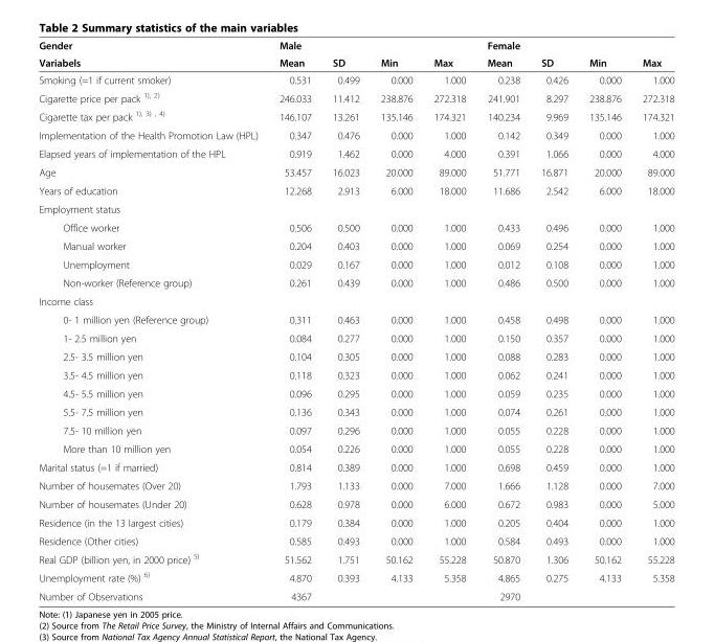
<table><thead><tr><td rowspan="2">Gender Variabels</td><td rowspan="2">Male Mean</td><td rowspan="2">SD</td><td rowspan="2">Min</td><td rowspan="2">Max</td><td rowspan="2">Female Mean</td><td rowspan="2">SD</td><td rowspan="2">Min</td><td rowspan="2">Max</td></tr><tr></tr></thead><tbody><tr><td>Smoking (=1 if current smoker)</td><td>0.531</td><td>0.499</td><td>0.000</td><td>1.000</td><td>0.238</td><td>0.426</td><td>0.000</td><td>1.000</td></tr><tr><td>Cigarette price per pack <sup>1), 2)</sup></td><td>246.033</td><td>11.412</td><td>238.876</td><td>272.318</td><td>241.901</td><td>8.297</td><td>238.876</td><td>272.318</td></tr><tr><td>Cigarette tax per pack <sup>1), 3) , 4)</sup></td><td>146.107</td><td>13.261</td><td>135.146</td><td>174.321</td><td>140.234</td><td>9.969</td><td>135.146</td><td>174.321</td></tr><tr><td>Implementation of the Health Promotion Law (HPL)</td><td>0.347</td><td>0.476</td><td>0.000</td><td>1.000</td><td>0.142</td><td>0.349</td><td>0.000</td><td>1.000</td></tr><tr><td>Elapsed years of implementation of the HPL</td><td>0.919</td><td>1.462</td><td>0.000</td><td>4.000</td><td>0.391</td><td>1.066</td><td>0.000</td><td>4.000</td></tr><tr><td>Age</td><td>53.457</td><td>16.023</td><td>20.000</td><td>89.000</td><td>51.771</td><td>16.871</td><td>20.000</td><td>89.000</td></tr><tr><td>Years of education</td><td>12.268</td><td>2.913</td><td>6.000</td><td>18.000</td><td>11.686</td><td>2.542</td><td>6.000</td><td>18.000</td></tr><tr><td colspan="9">Employment status</td></tr><tr><td>Office worker</td><td>0.506</td><td>0.500</td><td>0.000</td><td>1.000</td><td>0.433</td><td>0.496</td><td>0.000</td><td>1.000</td></tr><tr><td>Manual worker</td><td>0.204</td><td>0.403</td><td>0.000</td><td>1.000</td><td>0.069</td><td>0.254</td><td>0.000</td><td>1.000</td></tr><tr><td>Unemployment</td><td>0.029</td><td>0.167</td><td>0.000</td><td>1.000</td><td>0.012</td><td>0.108</td><td>0.000</td><td>1.000</td></tr><tr><td>Non-worker (Reference group)</td><td>0.261</td><td>0.439</td><td>0.000</td><td>1.000</td><td>0.486</td><td>0.500</td><td>0.000</td><td>1.000</td></tr><tr><td colspan="9">Income class</td></tr><tr><td>0- 1 million yen (Reference group)</td><td>0.311</td><td>0.463</td><td>0.000</td><td>1.000</td><td>0.458</td><td>0.498</td><td>0.000</td><td>1.000</td></tr><tr><td>1- 2.5 million yen</td><td>0.084</td><td>0.277</td><td>0.000</td><td>1.000</td><td>0.150</td><td>0.357</td><td>0.000</td><td>1.000</td></tr><tr><td>2.5- 3.5 million yen</td><td>0.104</td><td>0.305</td><td>0.000</td><td>1.000</td><td>0.088</td><td>0.283</td><td>0.000</td><td>1.000</td></tr><tr><td>3.5- 4.5 million yen</td><td>0.118</td><td>0.323</td><td>0.000</td><td>1.000</td><td>0.062</td><td>0.241</td><td>0.000</td><td>1.000</td></tr><tr><td>4.5- 5.5 million yen</td><td>0.096</td><td>0.295</td><td>0.000</td><td>1.000</td><td>0.059</td><td>0.235</td><td>0.000</td><td>1.000</td></tr><tr><td>5.5- 7.5 million yen</td><td>0.136</td><td>0.343</td><td>0.000</td><td>1.000</td><td>0.074</td><td>0.261</td><td>0.000</td><td>1.000</td></tr><tr><td>7.5- 10 million yen</td><td>0.097</td><td>0.296</td><td>0.000</td><td>1.000</td><td>0.055</td><td>0.228</td><td>0.000</td><td>1.000</td></tr><tr><td>More than 10 million yen</td><td>0.054</td><td>0.226</td><td>0.000</td><td>1.000</td><td>0.055</td><td>0.228</td><td>0.000</td><td>1.000</td></tr><tr><td>Marital status (=1 if married)</td><td>0.814</td><td>0.389</td><td>0.000</td><td>1.000</td><td>0.698</td><td>0.459</td><td>0.000</td><td>1.000</td></tr><tr><td>Number of housemates (Over 20)</td><td>1.793</td><td>1.133</td><td>0.000</td><td>7.000</td><td>1.666</td><td>1.128</td><td>0.000</td><td>7.000</td></tr><tr><td>Number of housemates (Under 20)</td><td>0.628</td><td>0.978</td><td>0.000</td><td>6.000</td><td>0.672</td><td>0.983</td><td>0.000</td><td>5.000</td></tr><tr><td>Residence (in the 13 largest cities)</td><td>0.179</td><td>0.384</td><td>0.000</td><td>1.000</td><td>0.205</td><td>0.404</td><td>0.000</td><td>1.000</td></tr><tr><td>Residence (Other cities)</td><td>0.585</td><td>0.493</td><td>0.000</td><td>1.000</td><td>0.584</td><td>0.493</td><td>0.000</td><td>1.000</td></tr><tr><td>Real GDP (billion yen, in 2000 price) <sup>5)</sup></td><td>51.562</td><td>1.751</td><td>50.162</td><td>55.228</td><td>50.870</td><td>1.306</td><td>50.162</td><td>55.228</td></tr><tr><td>Unemployment rate (%) <sup>6)</sup></td><td>4.870</td><td>0.393</td><td>4.133</td><td>5.358</td><td>4.865</td><td>0.275</td><td>4.133</td><td>5.358</td></tr><tr><td>Number of Observations</td><td>4367</td><td></td><td></td><td></td><td>2970</td><td></td><td></td><td></td></tr></tbody></table>